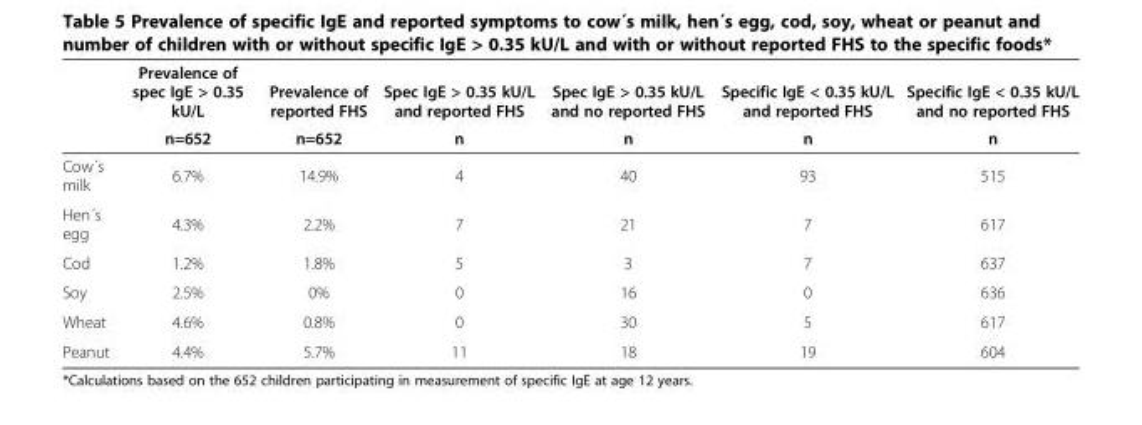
<table><thead><tr><td rowspan="2"></td><td rowspan="2">Prevalence of spec IgE &gt; 0.35 kU/L n=652</td><td rowspan="2">Prevalence of reported FHS n=652</td><td rowspan="2">Spec IgE &gt; 0.35 kU/L and reported FHS n</td><td rowspan="2">Spec IgE &gt; 0.35 kU/L and no reported FHS n</td><td rowspan="2">Specific IgE &lt; 0.35 kU/L and reported FHS n</td><td rowspan="2">Specific IgE &lt; 0.35 kU/L and no reported FHS n</td></tr><tr></tr></thead><tbody><tr><td>Cow´s milk</td><td>6.7%</td><td>14.9%</td><td>4</td><td>40</td><td>93</td><td>515</td></tr><tr><td>Hen´s egg</td><td>4.3%</td><td>2.2%</td><td>7</td><td>21</td><td>7</td><td>617</td></tr><tr><td>Cod</td><td>1.2%</td><td>1.8%</td><td>5</td><td>3</td><td>7</td><td>637</td></tr><tr><td>Soy</td><td>2.5%</td><td>0%</td><td>0</td><td>16</td><td>0</td><td>636</td></tr><tr><td>Wheat</td><td>4.6%</td><td>0.8%</td><td>0</td><td>30</td><td>5</td><td>617</td></tr><tr><td>Peanut</td><td>4.4%</td><td>5.7%</td><td>11</td><td>18</td><td>19</td><td>604</td></tr></tbody></table>